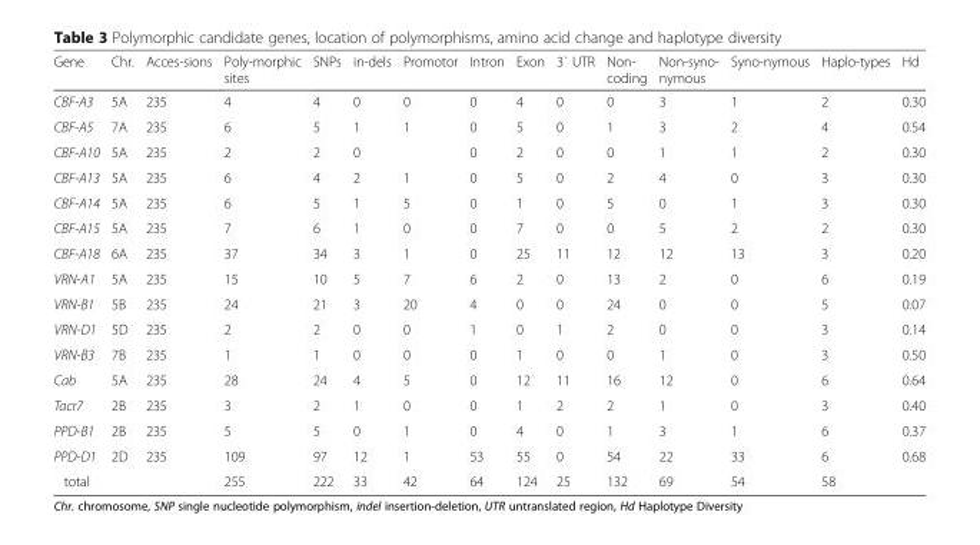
<table><thead><tr><td>Gene</td><td>Chr.</td><td>Acces-sions</td><td>Poly-morphic sites</td><td>SNPs</td><td>in-dels</td><td>Promotor</td><td>Intron</td><td>Exon</td><td>3` UTR</td><td>Non- coding</td><td>Non-syno- nymous</td><td>Syno-nymous</td><td>Haplo-types</td><td>Hd</td></tr></thead><tbody><tr><td>CBF-A3</td><td>5A</td><td>235</td><td>4</td><td>4</td><td>0</td><td>0</td><td>0</td><td>4</td><td>0</td><td>0</td><td>3</td><td>1</td><td>2</td><td>0.30</td></tr><tr><td>CBF-A5</td><td>7A</td><td>235</td><td>6</td><td>5</td><td>1</td><td>1</td><td>0</td><td>5</td><td>0</td><td>1</td><td>3</td><td>2</td><td>4</td><td>0.54</td></tr><tr><td>CBF-A10</td><td>5A</td><td>235</td><td>2</td><td>2</td><td>0</td><td></td><td>0</td><td>2</td><td>0</td><td>0</td><td>1</td><td>1</td><td>2</td><td>0.30</td></tr><tr><td>CBF-A13</td><td>5A</td><td>235</td><td>6</td><td>4</td><td>2</td><td>1</td><td>0</td><td>5</td><td>0</td><td>2</td><td>4</td><td>0</td><td>3</td><td>0.30</td></tr><tr><td>CBF-A14</td><td>5A</td><td>235</td><td>6</td><td>5</td><td>1</td><td>5</td><td>0</td><td>1</td><td>0</td><td>5</td><td>0</td><td>1</td><td>3</td><td>0.30</td></tr><tr><td>CBF-A15</td><td>5A</td><td>235</td><td>7</td><td>6</td><td>1</td><td>0</td><td>0</td><td>7</td><td>0</td><td>0</td><td>5</td><td>2</td><td>2</td><td>0.30</td></tr><tr><td>CBF-A18</td><td>6A</td><td>235</td><td>37</td><td>34</td><td>3</td><td>1</td><td>0</td><td>25</td><td>11</td><td>12</td><td>12</td><td>13</td><td>3</td><td>0.20</td></tr><tr><td>VRN-A1</td><td>5A</td><td>235</td><td>15</td><td>10</td><td>5</td><td>7</td><td>6</td><td>2</td><td>0</td><td>13</td><td>2</td><td>0</td><td>6</td><td>0.19</td></tr><tr><td>VRN-B1</td><td>5B</td><td>235</td><td>24</td><td>21</td><td>3</td><td>20</td><td>4</td><td>0</td><td>0</td><td>24</td><td>0</td><td>0</td><td>5</td><td>0.07</td></tr><tr><td>VRN-D1</td><td>5D</td><td>235</td><td>2</td><td>2</td><td>0</td><td>0</td><td>1</td><td>0</td><td>1</td><td>2</td><td>0</td><td>0</td><td>3</td><td>0.14</td></tr><tr><td>VRN-B3</td><td>7B</td><td>235</td><td>1</td><td>1</td><td>0</td><td>0</td><td>0</td><td>1</td><td>0</td><td>0</td><td>1</td><td>0</td><td>3</td><td>0.50</td></tr><tr><td>Cab</td><td>5A</td><td>235</td><td>28</td><td>24</td><td>4</td><td>5</td><td>0</td><td>12</td><td>11</td><td>16</td><td>12</td><td>0</td><td>6</td><td>0.64</td></tr><tr><td>Tacr7</td><td>2B</td><td>235</td><td>3</td><td>2</td><td>1</td><td>0</td><td>0</td><td>1</td><td>2</td><td>2</td><td>1</td><td>0</td><td>3</td><td>0.40</td></tr><tr><td>PPD-B1</td><td>2B</td><td>235</td><td>5</td><td>5</td><td>0</td><td>1</td><td>0</td><td>4</td><td>0</td><td>1</td><td>3</td><td>1</td><td>6</td><td>0.37</td></tr><tr><td>PPD-D1</td><td>2D</td><td>235</td><td>109</td><td>97</td><td>12</td><td>1</td><td>53</td><td>55</td><td>0</td><td>54</td><td>22</td><td>33</td><td>6</td><td>0.68</td></tr><tr><td>total</td><td></td><td></td><td>255</td><td>222</td><td>33</td><td>42</td><td>64</td><td>124</td><td>25</td><td>132</td><td>69</td><td>54</td><td>58</td><td></td></tr></tbody></table>